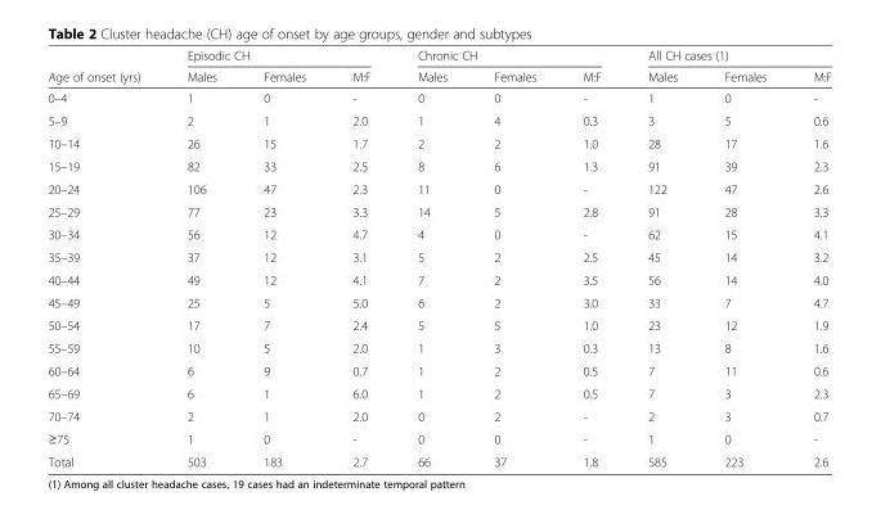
<table><thead><tr><td rowspan="2">Age of onset (yrs)</td><td colspan="3">Episodic CH</td><td colspan="3">Chronic CH</td><td colspan="3">All CH cases (1)</td></tr><tr><td>Males</td><td>Females</td><td>M:F</td><td>Males</td><td>Females</td><td>M:F</td><td>Males</td><td>Females</td><td>M:F</td></tr></thead><tbody><tr><td>0–4</td><td>1</td><td>0</td><td>-</td><td>0</td><td>0</td><td>-</td><td>1</td><td>0</td><td>-</td></tr><tr><td>5–9</td><td>2</td><td>1</td><td>2.0</td><td>1</td><td>4</td><td>0.3</td><td>3</td><td>5</td><td>0.6</td></tr><tr><td>10–14</td><td>26</td><td>15</td><td>1.7</td><td>2</td><td>2</td><td>1.0</td><td>28</td><td>17</td><td>1.6</td></tr><tr><td>15–19</td><td>82</td><td>33</td><td>2.5</td><td>8</td><td>6</td><td>1.3</td><td>91</td><td>39</td><td>2.3</td></tr><tr><td>20–24</td><td>106</td><td>47</td><td>2.3</td><td>11</td><td>0</td><td>-</td><td>122</td><td>47</td><td>2.6</td></tr><tr><td>25–29</td><td>77</td><td>23</td><td>3.3</td><td>14</td><td>5</td><td>2.8</td><td>91</td><td>28</td><td>3.3</td></tr><tr><td>30–34</td><td>56</td><td>12</td><td>4.7</td><td>4</td><td>0</td><td>-</td><td>62</td><td>15</td><td>4.1</td></tr><tr><td>35–39</td><td>37</td><td>12</td><td>3.1</td><td>5</td><td>2</td><td>2.5</td><td>45</td><td>14</td><td>3.2</td></tr><tr><td>40–44</td><td>49</td><td>12</td><td>4.1</td><td>7</td><td>2</td><td>3.5</td><td>56</td><td>14</td><td>4.0</td></tr><tr><td>45–49</td><td>25</td><td>5</td><td>5.0</td><td>6</td><td>2</td><td>3.0</td><td>33</td><td>7</td><td>4.7</td></tr><tr><td>50–54</td><td>17</td><td>7</td><td>2.4</td><td>5</td><td>5</td><td>1.0</td><td>23</td><td>12</td><td>1.9</td></tr><tr><td>55–59</td><td>10</td><td>5</td><td>2.0</td><td>1</td><td>3</td><td>0.3</td><td>13</td><td>8</td><td>1.6</td></tr><tr><td>60–64</td><td>6</td><td>9</td><td>0.7</td><td>1</td><td>2</td><td>0.5</td><td>7</td><td>11</td><td>0.6</td></tr><tr><td>65–69</td><td>6</td><td>1</td><td>6.0</td><td>1</td><td>2</td><td>0.5</td><td>7</td><td>3</td><td>2.3</td></tr><tr><td>70–74</td><td>2</td><td>1</td><td>2.0</td><td>0</td><td>2</td><td>-</td><td>2</td><td>3</td><td>0.7</td></tr><tr><td>≥75</td><td>1</td><td>0</td><td>-</td><td>0</td><td>0</td><td>-</td><td>1</td><td>0</td><td>-</td></tr><tr><td>Total</td><td>503</td><td>183</td><td>2.7</td><td>66</td><td>37</td><td>1.8</td><td>585</td><td>223</td><td>2.6</td></tr></tbody></table>